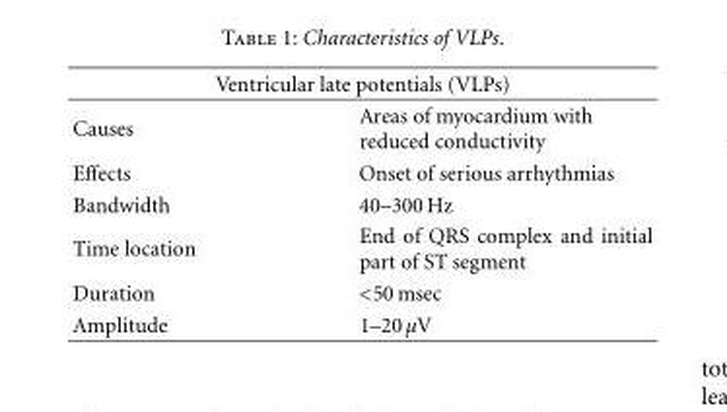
<table><thead><tr><td colspan="2">Ventricular late potentials (VLPs)</td></tr><tr><td>Causes</td><td>Areas of myocardium with reduced conductivity</td></tr></thead><tbody><tr><td>Effects</td><td>Onset of serious arrhythmias</td></tr><tr><td>Bandwidth</td><td>40–300 Hz</td></tr><tr><td>Time location</td><td>End of QRS complex and initial part of ST segment</td></tr><tr><td>Duration</td><td>&lt;50 msec</td></tr><tr><td>Amplitude</td><td>1–20 μV</td></tr></tbody></table>